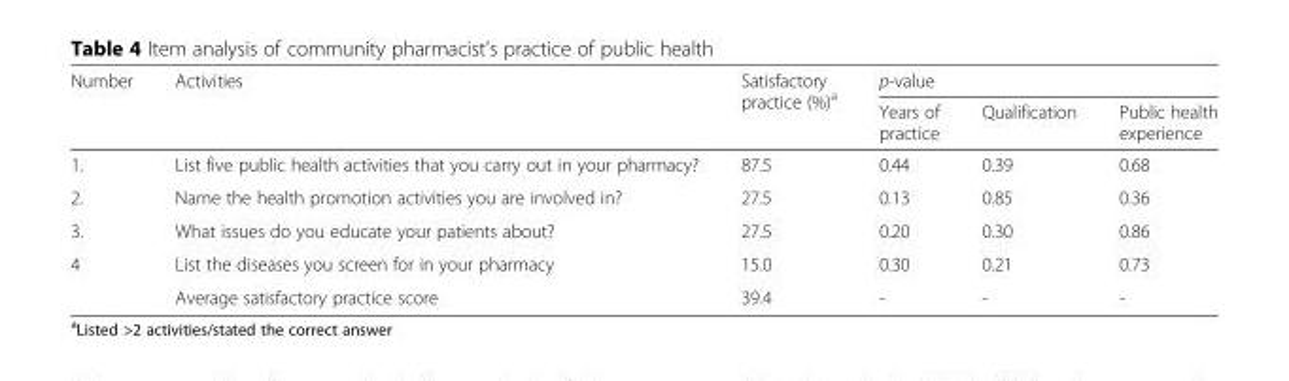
<table><thead><tr><td rowspan="2">Number</td><td rowspan="2">Activities</td><td rowspan="2">Satisfactory practice (%)<sup>a</sup></td><td colspan="3">p-value</td></tr><tr><td>Years of practice</td><td>Qualification</td><td>Public health experience</td></tr></thead><tbody><tr><td>1.</td><td>List five public health activities that you carry out in your pharmacy?</td><td>87.5</td><td>0.44</td><td>0.39</td><td>0.68</td></tr><tr><td>2.</td><td>Name the health promotion activities you are involved in?</td><td>27.5</td><td>0.13</td><td>0.85</td><td>0.36</td></tr><tr><td>3.</td><td>What issues do you educate your patients about?</td><td>27.5</td><td>0.20</td><td>0.30</td><td>0.86</td></tr><tr><td rowspan="2">4</td><td>List the diseases you screen for in your pharmacy</td><td>15.0</td><td>0.30</td><td>0.21</td><td>0.73</td></tr><tr><td>Average satisfactory practice score</td><td>39.4</td><td>-</td><td>-</td><td>-</td></tr></tbody></table>